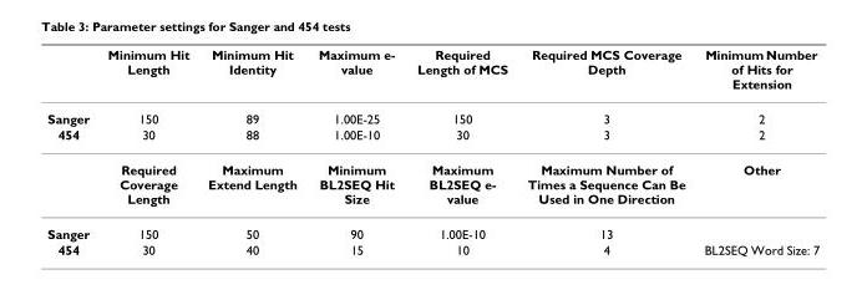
<table><thead><tr><td></td><td>Minimum Hit Length</td><td>Minimum Hit Identity</td><td>Maximum e- value</td><td>Required Length of MCS</td><td>Required MCS Coverage Depth</td><td>Minimum Number of Hits for Extension</td></tr></thead><tbody><tr><td>Sanger</td><td>150</td><td>89</td><td>1.00E-25</td><td>150</td><td>3</td><td>2</td></tr><tr><td rowspan="2">454</td><td>30</td><td>88</td><td>1.00E-10</td><td>30</td><td>3</td><td>2</td></tr><tr><td>Required Coverage Length</td><td>Maximum Extend Length</td><td>Minimum BL2SEQ Hit Size</td><td>Maximum BL2SEQ e- value</td><td>Maximum Number of Times a Sequence Can Be Used in One Direction</td><td>Other</td></tr><tr><td>Sanger</td><td>150</td><td>50</td><td>90</td><td>1.00E-10</td><td>13</td><td></td></tr><tr><td>454</td><td>30</td><td>40</td><td>15</td><td>10</td><td>4</td><td>BL2SEQ Word Size: 7</td></tr></tbody></table>